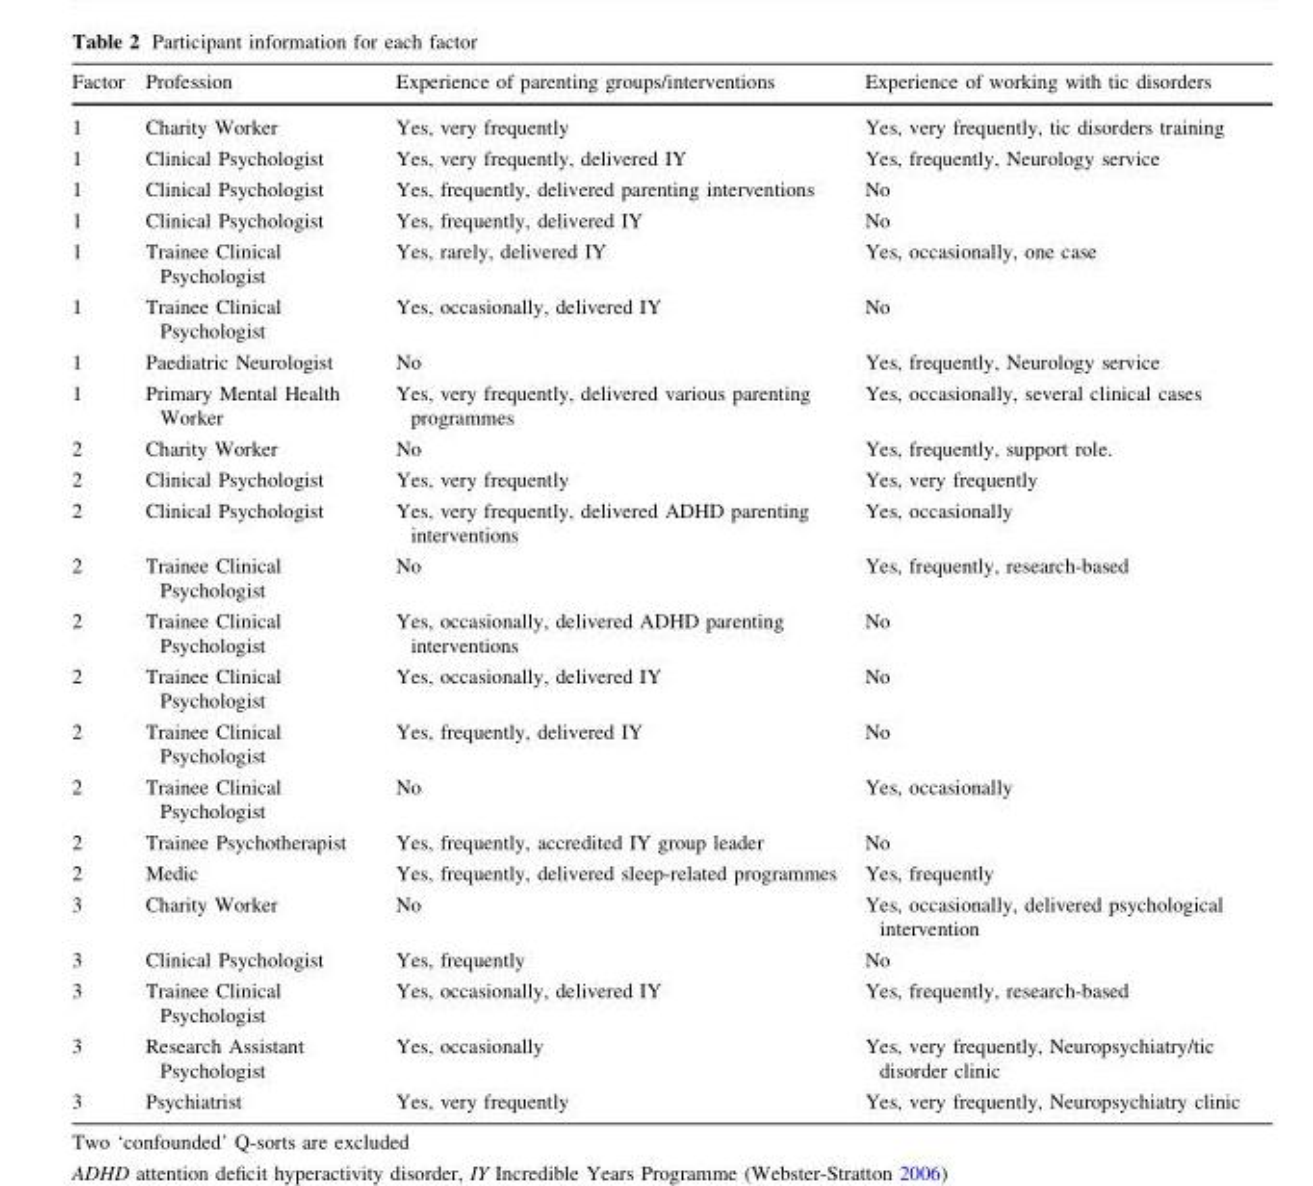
<table><thead><tr><td>Factor</td><td>Profession</td><td>Experience of parenting groups/interventions</td><td>Experience of working with tic disorders</td></tr></thead><tbody><tr><td>1</td><td>Charity Worker</td><td>Yes, very frequently</td><td>Yes, very frequently, tic disorders training</td></tr><tr><td>1</td><td>Clinical Psychologist</td><td>Yes, very frequently, delivered IY</td><td>Yes, frequently, Neurology service</td></tr><tr><td>1</td><td>Clinical Psychologist</td><td>Yes, frequently, delivered parenting interventions</td><td>No</td></tr><tr><td>1</td><td>Clinical Psychologist</td><td>Yes, frequently, delivered IY</td><td>No</td></tr><tr><td>1</td><td>Trainee Clinical Psychologist</td><td>Yes, rarely, delivered IY</td><td>Yes, occasionally, one case</td></tr><tr><td>1</td><td>Trainee Clinical Psychologist</td><td>Yes, occasionally, delivered IY</td><td>No</td></tr><tr><td>1</td><td>Paediatric Neurologist</td><td>No</td><td>Yes, frequently, Neurology service</td></tr><tr><td>1</td><td>Primary Mental Health Worker</td><td>Yes, very frequently, delivered various parenting programmes</td><td>Yes, occasionally, several clinical cases</td></tr><tr><td>2</td><td>Charity Worker</td><td>No</td><td>Yes, frequently, support role.</td></tr><tr><td>2</td><td>Clinical Psychologist</td><td>Yes, very frequently</td><td>Yes, very frequently</td></tr><tr><td>2</td><td>Clinical Psychologist</td><td>Yes, very frequently, delivered ADHD parenting interventions</td><td>Yes, occasionally</td></tr><tr><td>2</td><td>Trainee Clinical Psychologist</td><td>No</td><td>Yes, frequently, research-based</td></tr><tr><td>2</td><td>Trainee Clinical Psychologist</td><td>Yes, occasionally, delivered ADHD parenting interventions</td><td>No</td></tr><tr><td>2</td><td>Trainee Clinical Psychologist</td><td>Yes, occasionally, delivered IY</td><td>No</td></tr><tr><td>2</td><td>Trainee Clinical Psychologist</td><td>Yes, frequently, delivered IY</td><td>No</td></tr><tr><td>2</td><td>Trainee Clinical Psychologist</td><td>No</td><td>Yes, occasionally</td></tr><tr><td>2</td><td>Trainee Psychotherapist</td><td>Yes, frequently, accredited IY group leader</td><td>No</td></tr><tr><td>2</td><td>Medic</td><td>Yes, frequently, delivered sleep-related programmes</td><td>Yes, frequently</td></tr><tr><td>3</td><td>Charity Worker</td><td>No</td><td>Yes, occasionally, delivered psychological intervention</td></tr><tr><td>3</td><td>Clinical Psychologist</td><td>Yes, frequently</td><td>No</td></tr><tr><td>3</td><td>Trainee Clinical Psychologist</td><td>Yes, occasionally, delivered IY</td><td>Yes, frequently, research-based</td></tr><tr><td>3</td><td>Research Assistant Psychologist</td><td>Yes, occasionally</td><td>Yes, very frequently, Neuropsychiatry/tic disorder clinic</td></tr><tr><td>3</td><td>Psychiatrist</td><td>Yes, very frequently</td><td>Yes, very frequently, Neuropsychiatry clinic</td></tr></tbody></table>